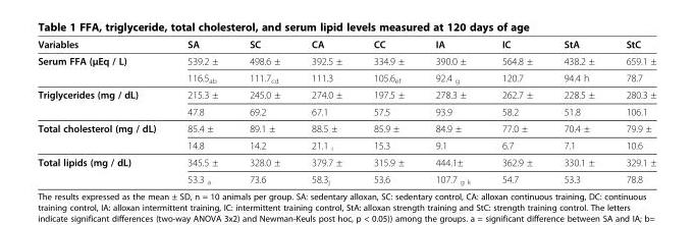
<table><thead><tr><td>Variables</td><td>SA</td><td>SC</td><td>CA</td><td>CC</td><td>IA</td><td>IC</td><td>StA</td><td>StC</td></tr></thead><tbody><tr><td rowspan="2">Serum FFA (μEq / L)</td><td>539.2 ±</td><td>498.6 ±</td><td>392.5 ±</td><td>334.9 ±</td><td>390.0 ±</td><td>564.8 ±</td><td>438.2 ±</td><td>659.1 ±</td></tr><tr><td>116.5<sub>ab</sub></td><td>111.7<sub>cd</sub></td><td>111.3</td><td>105.6<sub>ef</sub></td><td>92.4 <sub>g</sub></td><td>120.7</td><td>94.4 h</td><td>78.7</td></tr><tr><td rowspan="2">Triglycerides (mg / dL)</td><td>215.3 ±</td><td>245.0 ±</td><td>274.0 ±</td><td>197.5 ±</td><td>278.3 ±</td><td>262.7 ±</td><td>228.5 ±</td><td>280.3 ±</td></tr><tr><td>47.8</td><td>69.2</td><td>67.1</td><td>57.5</td><td>93.9</td><td>58.2</td><td>51.8</td><td>106.1</td></tr><tr><td rowspan="2">Total cholesterol (mg / dL)</td><td>85.4 ±</td><td>89.1 ±</td><td>88.5 ±</td><td>85.9 ±</td><td>84.9 ±</td><td>77.0 ±</td><td>70.4 ±</td><td>79.9 ±</td></tr><tr><td>14.8</td><td>14.2</td><td>21.1 <sub>i</sub></td><td>15.3</td><td>9.1</td><td>6.7</td><td>7.1</td><td>10.6</td></tr><tr><td rowspan="2">Total lipids (mg / dL)</td><td>345.5 ±</td><td>328.0 ±</td><td>379.7 ±</td><td>315.9 ±</td><td>444.1±</td><td>362.9 ±</td><td>330.1 ±</td><td>329.1 ±</td></tr><tr><td>53.3 <sub>a</sub></td><td>73.6</td><td>58.3<sub>j</sub></td><td>53.6</td><td>107.7 <sub>g k</sub></td><td>54.7</td><td>53.3</td><td>78.8</td></tr></tbody></table>